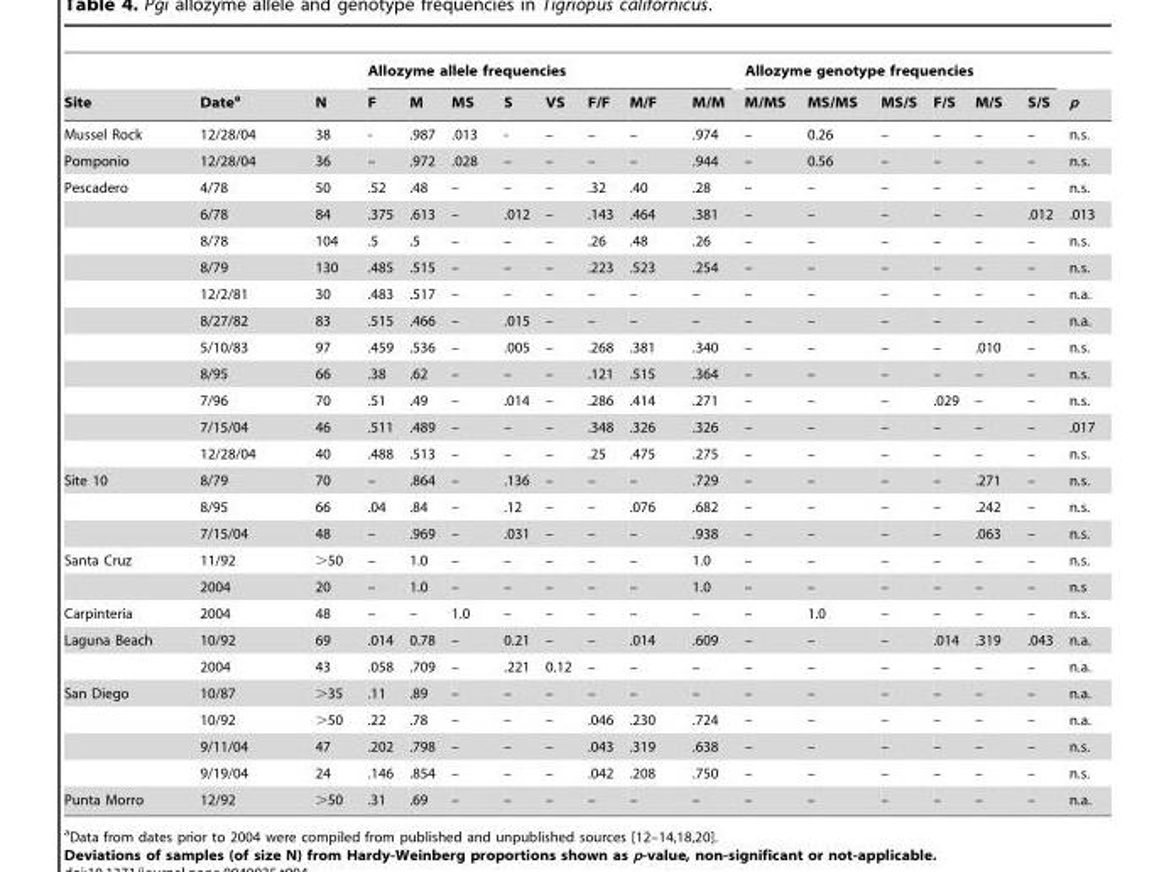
<table><thead><tr><td rowspan="2">Site</td><td rowspan="2">Date<sup>a</sup></td><td rowspan="2">N</td><td colspan="8">Allozyme allele frequencies</td><td colspan="6">Allozyme genotype frequencies</td><td rowspan="2">p</td></tr><tr><td>F</td><td>M</td><td>MS</td><td>S</td><td>VS</td><td>F/F</td><td>M/F</td><td>M/M</td><td>M/MS</td><td>MS/MS</td><td>MS/S</td><td>F/S</td><td>M/S</td><td>S/S</td></tr></thead><tbody><tr><td>Mussel Rock</td><td>12/28/04</td><td>38</td><td>-</td><td>.987</td><td>.013</td><td>-</td><td>–</td><td>–</td><td>–</td><td>.974</td><td>–</td><td>0.26</td><td>–</td><td>–</td><td>–</td><td>–</td><td>n.s.</td></tr><tr><td>Pomponio</td><td>12/28/04</td><td>36</td><td>–</td><td>.972</td><td>.028</td><td>–</td><td>–</td><td>–</td><td>–</td><td>.944</td><td>–</td><td>0.56</td><td>–</td><td>–</td><td>–</td><td>–</td><td>n.s.</td></tr><tr><td rowspan="11">Pescadero</td><td>4/78</td><td>50</td><td>.52</td><td>.48</td><td>–</td><td>–</td><td>–</td><td>.32</td><td>.40</td><td>.28</td><td>–</td><td>–</td><td>–</td><td>–</td><td>–</td><td>–</td><td>n.s.</td></tr><tr><td>6/78</td><td>84</td><td>.375</td><td>.613</td><td>–</td><td>.012</td><td>–</td><td>.143</td><td>.464</td><td>.381</td><td>–</td><td>–</td><td>–</td><td>–</td><td>–</td><td>.012</td><td>.013</td></tr><tr><td>8/78</td><td>104</td><td>.5</td><td>.5</td><td>–</td><td>–</td><td>–</td><td>.26</td><td>.48</td><td>.26</td><td>–</td><td>–</td><td>–</td><td>–</td><td>–</td><td>–</td><td>n.s.</td></tr><tr><td>8/79</td><td>130</td><td>.485</td><td>.515</td><td>–</td><td>–</td><td>–</td><td>.223</td><td>.523</td><td>.254</td><td>–</td><td>–</td><td>–</td><td>–</td><td>–</td><td>–</td><td>n.s.</td></tr><tr><td>12/2/81</td><td>30</td><td>.483</td><td>.517</td><td>–</td><td>–</td><td>–</td><td>–</td><td>–</td><td>–</td><td>–</td><td>–</td><td>–</td><td>–</td><td>–</td><td>–</td><td>n.a.</td></tr><tr><td>8/27/82</td><td>83</td><td>.515</td><td>.466</td><td>–</td><td>.015</td><td>–</td><td>–</td><td>–</td><td>–</td><td>–</td><td>–</td><td>–</td><td>–</td><td>–</td><td>–</td><td>n.a.</td></tr><tr><td>5/10/83</td><td>97</td><td>.459</td><td>.536</td><td>–</td><td>.005</td><td>–</td><td>.268</td><td>.381</td><td>.340</td><td>–</td><td>–</td><td>–</td><td>–</td><td>.010</td><td>–</td><td>n.s.</td></tr><tr><td>8/95</td><td>66</td><td>.38</td><td>.62</td><td>–</td><td>–</td><td>–</td><td>.121</td><td>.515</td><td>.364</td><td>–</td><td>–</td><td>–</td><td>–</td><td>–</td><td>–</td><td>n.s.</td></tr><tr><td>7/96</td><td>70</td><td>.51</td><td>.49</td><td>–</td><td>.014</td><td>–</td><td>.286</td><td>.414</td><td>.271</td><td>–</td><td>–</td><td>–</td><td>.029</td><td>–</td><td>–</td><td>n.s.</td></tr><tr><td>7/15/04</td><td>46</td><td>.511</td><td>.489</td><td>–</td><td>–</td><td>–</td><td>.348</td><td>.326</td><td>.326</td><td>–</td><td>–</td><td>–</td><td>–</td><td>–</td><td>–</td><td>.017</td></tr><tr><td>12/28/04</td><td>40</td><td>.488</td><td>.513</td><td>–</td><td>–</td><td>–</td><td>.25</td><td>.475</td><td>.275</td><td>–</td><td>–</td><td>–</td><td>–</td><td>–</td><td>–</td><td>n.s.</td></tr><tr><td rowspan="3">Site 10</td><td>8/79</td><td>70</td><td>–</td><td>.864</td><td>–</td><td>.136</td><td>–</td><td>–</td><td>–</td><td>.729</td><td>–</td><td>–</td><td>–</td><td>–</td><td>.271</td><td>–</td><td>n.s.</td></tr><tr><td>8/95</td><td>66</td><td>.04</td><td>.84</td><td>–</td><td>.12</td><td>–</td><td>–</td><td>.076</td><td>.682</td><td>–</td><td>–</td><td>–</td><td>–</td><td>.242</td><td>–</td><td>n.s.</td></tr><tr><td>7/15/04</td><td>48</td><td>–</td><td>.969</td><td>–</td><td>.031</td><td>–</td><td>–</td><td>–</td><td>.938</td><td>–</td><td>–</td><td>–</td><td>–</td><td>.063</td><td>–</td><td>n.s.</td></tr><tr><td rowspan="2">Santa Cruz</td><td>11/92</td><td>&gt;50</td><td>–</td><td>1.0</td><td>–</td><td>–</td><td>–</td><td>–</td><td>–</td><td>1.0</td><td>–</td><td>–</td><td>–</td><td>–</td><td>–</td><td>–</td><td>n.s.</td></tr><tr><td>2004</td><td>20</td><td>–</td><td>1.0</td><td>–</td><td>–</td><td>–</td><td>–</td><td>–</td><td>1.0</td><td>–</td><td>–</td><td>–</td><td>–</td><td>–</td><td>–</td><td>n.s</td></tr><tr><td>Carpinteria</td><td>2004</td><td>48</td><td>–</td><td>–</td><td>1.0</td><td>–</td><td>–</td><td>–</td><td>–</td><td>–</td><td>–</td><td>1.0</td><td>–</td><td>–</td><td>–</td><td>–</td><td>n.s.</td></tr><tr><td rowspan="2">Laguna Beach</td><td>10/92</td><td>69</td><td>.014</td><td>0.78</td><td>–</td><td>0.21</td><td>–</td><td>–</td><td>.014</td><td>.609</td><td>–</td><td>–</td><td>–</td><td>.014</td><td>.319</td><td>.043</td><td>n.a.</td></tr><tr><td>2004</td><td>43</td><td>.058</td><td>.709</td><td>–</td><td>.221</td><td>0.12</td><td>–</td><td>–</td><td>–</td><td>–</td><td>–</td><td>–</td><td>–</td><td>–</td><td>–</td><td>n.a.</td></tr><tr><td rowspan="4">San Diego</td><td>10/87</td><td>&gt;35</td><td>.11</td><td>.89</td><td>–</td><td>–</td><td>–</td><td>–</td><td>–</td><td>–</td><td>–</td><td>–</td><td>–</td><td>–</td><td>–</td><td>–</td><td>n.a.</td></tr><tr><td>10/92</td><td>&gt;50</td><td>.22</td><td>.78</td><td>–</td><td>–</td><td>–</td><td>.046</td><td>.230</td><td>.724</td><td>–</td><td>–</td><td>–</td><td>–</td><td>–</td><td>–</td><td>n.a.</td></tr><tr><td>9/11/04</td><td>47</td><td>.202</td><td>.798</td><td>–</td><td>–</td><td>–</td><td>.043</td><td>.319</td><td>.638</td><td>–</td><td>–</td><td>–</td><td>–</td><td>–</td><td>–</td><td>n.s.</td></tr><tr><td>9/19/04</td><td>24</td><td>.146</td><td>.854</td><td>–</td><td>–</td><td>–</td><td>.042</td><td>.208</td><td>.750</td><td>–</td><td>–</td><td>–</td><td>–</td><td>–</td><td>–</td><td>n.s.</td></tr><tr><td>Punta Morro</td><td>12/92</td><td>&gt;50</td><td>.31</td><td>.69</td><td>–</td><td>–</td><td>–</td><td>–</td><td>–</td><td>–</td><td>–</td><td>–</td><td>–</td><td>–</td><td>–</td><td>–</td><td>n.a.</td></tr></tbody></table>